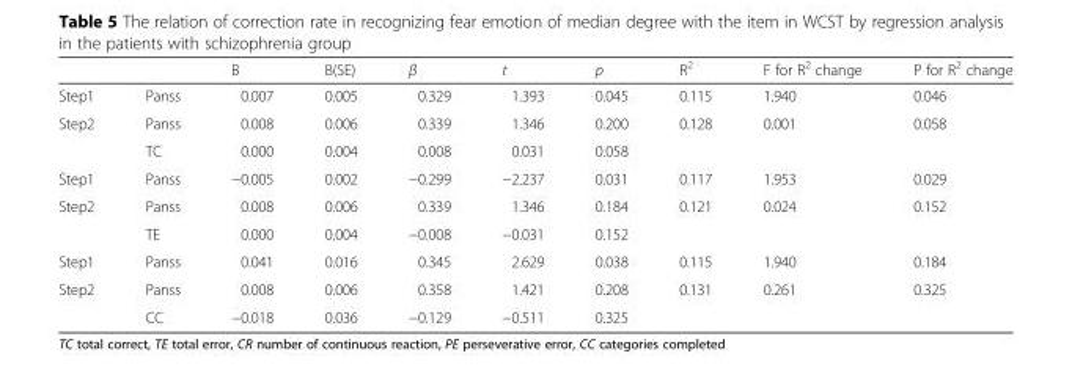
<table><thead><tr><td></td><td></td><td>B</td><td>B(SE)</td><td>β</td><td>t</td><td>p</td><td>R<sup>2</sup></td><td>F for R<sup>2</sup> change</td><td>P for R<sup>2</sup> change</td></tr></thead><tbody><tr><td>Step1</td><td>Panss</td><td>0.007</td><td>0.005</td><td>0.329</td><td>1.393</td><td>0.045</td><td>0.115</td><td>1.940</td><td>0.046</td></tr><tr><td rowspan="2">Step2</td><td>Panss</td><td>0.008</td><td>0.006</td><td>0.339</td><td>1.346</td><td>0.200</td><td rowspan="2">0.128</td><td rowspan="2">0.001</td><td rowspan="2">0.058</td></tr><tr><td>TC</td><td>0.000</td><td>0.004</td><td>0.008</td><td>0.031</td><td>0.058</td></tr><tr><td>Step1</td><td>Panss</td><td>−0.005</td><td>0.002</td><td>−0.299</td><td>−2.237</td><td>0.031</td><td>0.117</td><td>1.953</td><td>0.029</td></tr><tr><td rowspan="2">Step2</td><td>Panss</td><td>0.008</td><td>0.006</td><td>0.339</td><td>1.346</td><td>0.184</td><td>0.121</td><td>0.024</td><td>0.152</td></tr><tr><td>TE</td><td>0.000</td><td>0.004</td><td>−0.008</td><td>−0.031</td><td>0.152</td><td></td><td></td><td></td></tr><tr><td>Step1</td><td>Panss</td><td>0.041</td><td>0.016</td><td>0.345</td><td>2.629</td><td>0.038</td><td>0.115</td><td>1.940</td><td>0.184</td></tr><tr><td rowspan="2">Step2</td><td>Panss</td><td>0.008</td><td>0.006</td><td>0.358</td><td>1.421</td><td>0.208</td><td>0.131</td><td>0.261</td><td>0.325</td></tr><tr><td>CC</td><td>−0.018</td><td>0.036</td><td>−0.129</td><td>−0.511</td><td>0.325</td><td></td><td></td><td></td></tr></tbody></table>